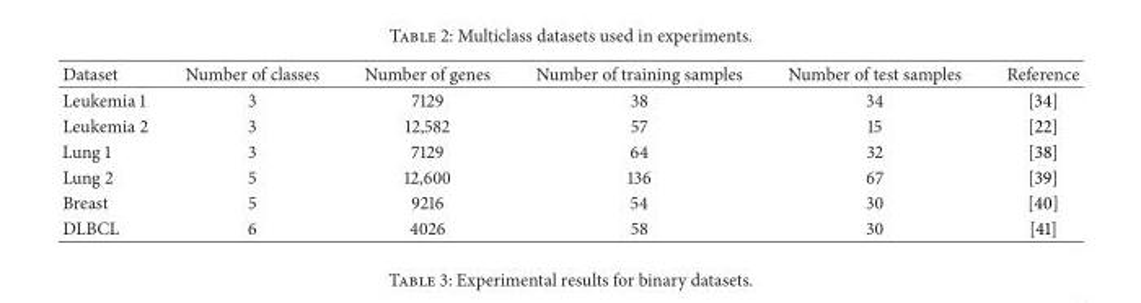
<table><thead><tr><td>Dataset</td><td>Number of classes</td><td>Number of genes</td><td>Number of training samples</td><td>Number of test samples</td><td>Reference</td></tr></thead><tbody><tr><td>Leukemia 1</td><td>3</td><td>7129</td><td>38</td><td>34</td><td>[34]</td></tr><tr><td>Leukemia 2</td><td>3</td><td>12,582</td><td>57</td><td>15</td><td>[22]</td></tr><tr><td>Lung 1</td><td>3</td><td>7129</td><td>64</td><td>32</td><td>[38]</td></tr><tr><td>Lung 2</td><td>5</td><td>12,600</td><td>136</td><td>67</td><td>[39]</td></tr><tr><td>Breast</td><td>5</td><td>9216</td><td>54</td><td>30</td><td>[40]</td></tr><tr><td>DLBCL</td><td>6</td><td>4026</td><td>58</td><td>30</td><td>[41]</td></tr></tbody></table>